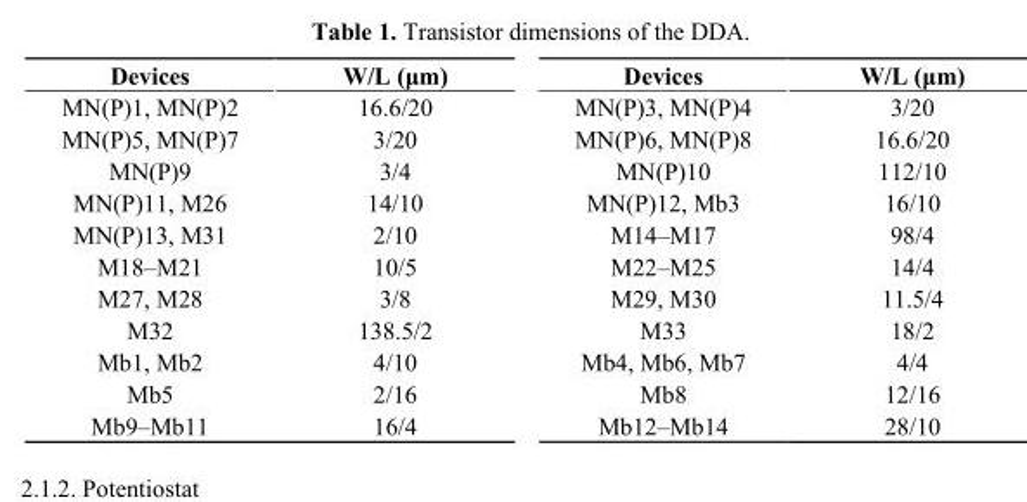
<table><thead><tr><td>Devices</td><td>W/L (μm)</td><td>Devices</td><td>W/L (μm)</td></tr></thead><tbody><tr><td>MN(P)1, MN(P)2</td><td>16.6/20</td><td>MN(P)3, MN(P)4</td><td>3/20</td></tr><tr><td>MN(P)5, MN(P)7</td><td>3/20</td><td>MN(P)6, MN(P)8</td><td>16.6/20</td></tr><tr><td>MN(P)9</td><td>3/4</td><td>MN(P)10</td><td>112/10</td></tr><tr><td>MN(P)11, M26</td><td>14/10</td><td>MN(P)12, Mb3</td><td>16/10</td></tr><tr><td>MN(P)13, M31</td><td>2/10</td><td>M14–M17</td><td>98/4</td></tr><tr><td>M18–M21</td><td>10/5</td><td>M22–M25</td><td>14/4</td></tr><tr><td>M27, M28</td><td>3/8</td><td>M29, M30</td><td>11.5/4</td></tr><tr><td>M32</td><td>138.5/2</td><td>M33</td><td>18/2</td></tr><tr><td>Mb1, Mb2</td><td>4/10</td><td>Mb4, Mb6, Mb7</td><td>4/4</td></tr><tr><td>Mb5</td><td>2/16</td><td>Mb8</td><td>12/16</td></tr><tr><td>Mb9–Mb11</td><td>16/4</td><td>Mb12–Mb14</td><td>28/10</td></tr></tbody></table>